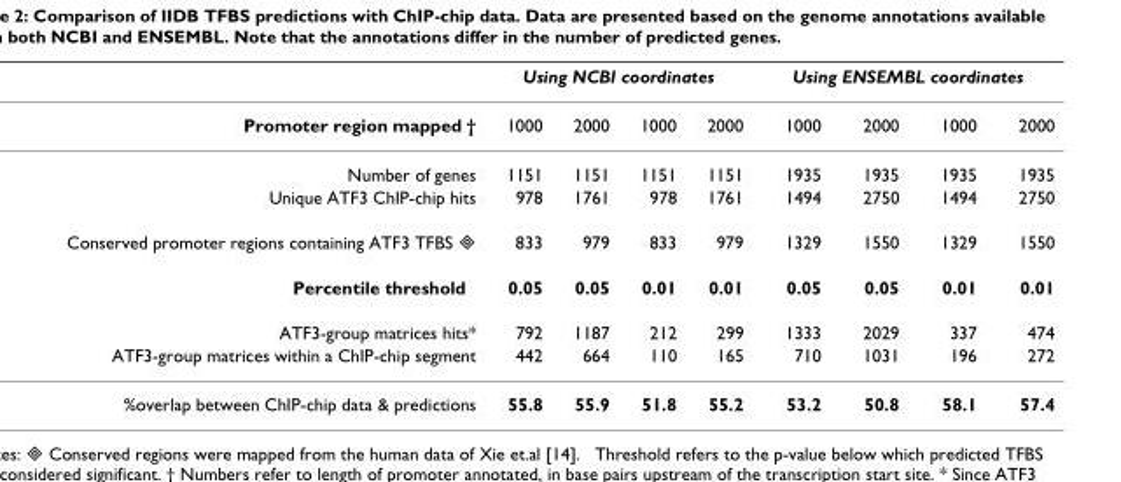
<table><thead><tr><td rowspan="2">Promoter region mapped †</td><td colspan="4">Using NCBI coordinates</td><td colspan="4">Using ENSEMBL coordinates</td></tr><tr><td>1000</td><td>2000</td><td>1000</td><td>2000</td><td>1000</td><td>2000</td><td>1000</td><td>2000</td></tr></thead><tbody><tr><td>Number of genes</td><td>1151</td><td>1151</td><td>1151</td><td>1151</td><td>1935</td><td>1935</td><td>1935</td><td>1935</td></tr><tr><td>Unique ATF3 ChIP-chip hits</td><td>978</td><td>1761</td><td>978</td><td>1761</td><td>1494</td><td>2750</td><td>1494</td><td>2750</td></tr><tr><td>Conserved promoter regions containing ATF3 TFBS ◇</td><td>833</td><td>979</td><td>833</td><td>979</td><td>1329</td><td>1550</td><td>1329</td><td>1550</td></tr><tr><td>Percentile threshold</td><td>0.05</td><td>0.05</td><td>0.01</td><td>0.01</td><td>0.05</td><td>0.05</td><td>0.01</td><td>0.01</td></tr><tr><td>ATF3-group matrices hits*</td><td>792</td><td>1187</td><td>212</td><td>299</td><td>1333</td><td>2029</td><td>337</td><td>474</td></tr><tr><td>ATF3-group matrices within a ChIP-chip segment</td><td>442</td><td>664</td><td>110</td><td>165</td><td>710</td><td>1031</td><td>196</td><td>272</td></tr><tr><td>%overlap between ChIP-chip data &amp; predictions</td><td>55.8</td><td>55.9</td><td>51.8</td><td>55.2</td><td>53.2</td><td>50.8</td><td>58.1</td><td>57.4</td></tr></tbody></table>